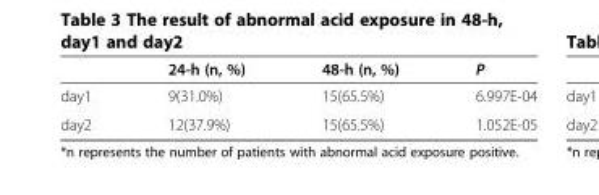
<table><thead><tr><td></td><td>24-h (n, %)</td><td>48-h (n, %)</td><td>P</td></tr></thead><tbody><tr><td>day1</td><td>9(31.0%)</td><td>15(65.5%)</td><td>6.997E-04</td></tr><tr><td>day2</td><td>12(37.9%)</td><td>15(65.5%)</td><td>1.052E-05</td></tr></tbody></table>